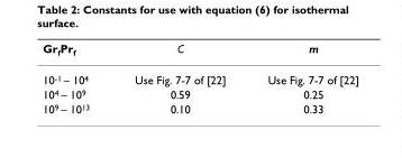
<table><thead><tr><td>Gr<sub>f</sub>Pr<sub>f</sub></td><td>C</td><td>m</td></tr></thead><tbody><tr><td>10<sup>-1</sup> – 10<sup>4</sup></td><td>Use Fig. 7-7 of [22]</td><td>Use Fig. 7-7 of [22]</td></tr><tr><td>10<sup>4</sup> – 10<sup>9</sup></td><td>0.59</td><td>0.25</td></tr><tr><td>10<sup>9</sup> – 10<sup>13</sup></td><td>0.10</td><td>0.33</td></tr></tbody></table>